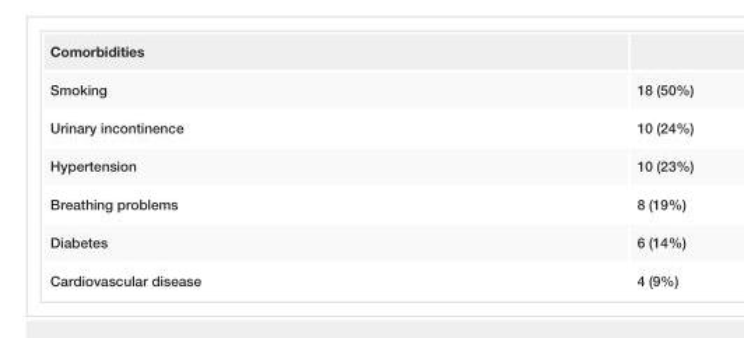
<table><tbody><tr><td colspan="2">Comorbidities</td></tr><tr><td>Smoking</td><td>18 (50%)</td></tr><tr><td>Urinary incontinence</td><td>10 (24%)</td></tr><tr><td>Hypertension</td><td>10 (23%)</td></tr><tr><td>Breathing problems</td><td>8 (19%)</td></tr><tr><td>Diabetes</td><td>6 (14%)</td></tr><tr><td>Cardiovascular disease</td><td>4 (9%)</td></tr></tbody></table>